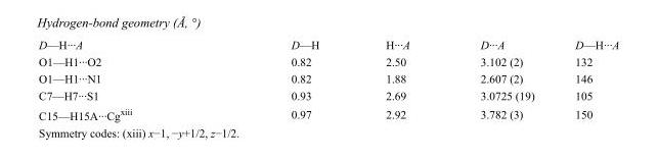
<table><tbody><tr><td>D—H···A</td><td>D—H</td><td>H···A</td><td>D···A</td><td>D—H···A</td></tr><tr><td>O1—H1···O2</td><td>0.82</td><td>2.50</td><td>3.102 (2)</td><td>132</td></tr><tr><td>O1—H1···N1</td><td>0.82</td><td>1.88</td><td>2.607 (2)</td><td>146</td></tr><tr><td>C7—H7···S1</td><td>0.93</td><td>2.69</td><td>3.0725 (19)</td><td>105</td></tr><tr><td>C15—H15A···Cg<sup>xiii</sup></td><td>0.97</td><td>2.92</td><td>3.782 (3)</td><td>150</td></tr></tbody></table>